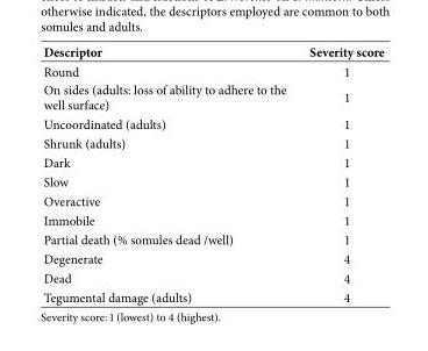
<table><thead><tr><td>Descriptor</td><td>Severity score</td></tr></thead><tbody><tr><td>Round</td><td>1</td></tr><tr><td>On sides (adults: loss of ability to adhere to the well surface)</td><td>1</td></tr><tr><td>Uncoordinated (adults)</td><td>1</td></tr><tr><td>Shrunk (adults)</td><td>1</td></tr><tr><td>Dark</td><td>1</td></tr><tr><td>Slow</td><td>1</td></tr><tr><td>Overactive</td><td>1</td></tr><tr><td>Immobile</td><td>1</td></tr><tr><td>Partial death (% somules dead /well)</td><td>1</td></tr><tr><td>Degenerate</td><td>4</td></tr><tr><td>Dead</td><td>4</td></tr><tr><td>Tegumental damage (adults)</td><td>4</td></tr></tbody></table>